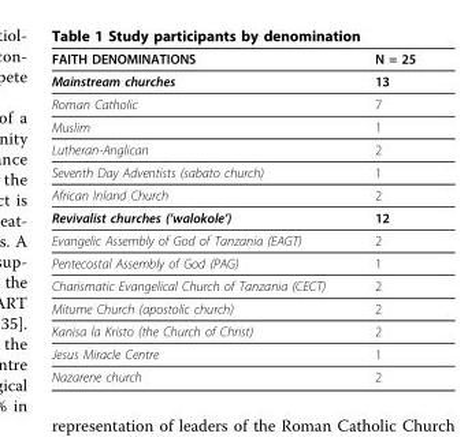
<table><thead><tr><td>FAITH DENOMINATIONS</td><td>N = 25</td></tr></thead><tbody><tr><td>Mainstream churches</td><td>13</td></tr><tr><td>Roman Catholic</td><td>7</td></tr><tr><td>Muslim</td><td>1</td></tr><tr><td>Lutheran-Anglican</td><td>2</td></tr><tr><td>Seventh Day Adventists (sabato church)</td><td>1</td></tr><tr><td>African Inland Church</td><td>2</td></tr><tr><td>Revivalist churches (’walokole’)</td><td>12</td></tr><tr><td>Evangelic Assembly of God of Tanzania (EAGT)</td><td>2</td></tr><tr><td>Pentecostal Assembly of God (PAG)</td><td>1</td></tr><tr><td>Charismatic Evangelical Church of Tanzania (CECT)</td><td>2</td></tr><tr><td>Mitume Church (apostolic church)</td><td>2</td></tr><tr><td>Kanisa la Kristo (the Church of Christ)</td><td>2</td></tr><tr><td>Jesus Miracle Centre</td><td>1</td></tr><tr><td>Nazarene church</td><td>2</td></tr></tbody></table>